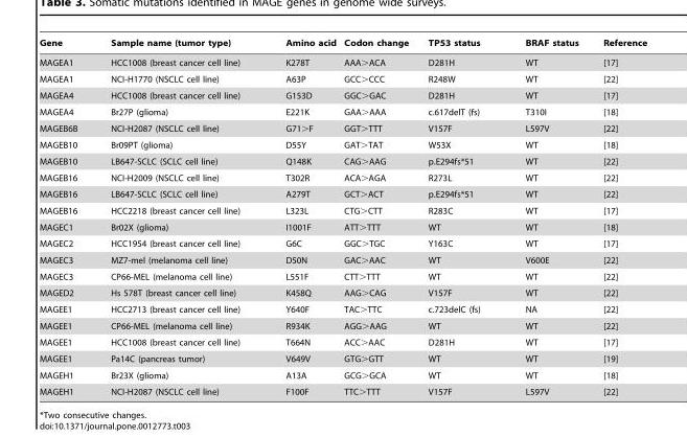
<table><thead><tr><td>Gene</td><td>Sample name (tumor type)</td><td>Amino acid</td><td>Codon change</td><td>TP53 status</td><td>BRAF status</td><td>Reference</td></tr></thead><tbody><tr><td>MAGEA1</td><td>HCC1008 (breast cancer cell line)</td><td>K278T</td><td>AAA&gt;ACA</td><td>D281H</td><td>WT</td><td>[17]</td></tr><tr><td>MAGEA1</td><td>NCI-H1770 (NSCLC cell line)</td><td>A63P</td><td>GCC&gt;CCC</td><td>R248W</td><td>WT</td><td>[22]</td></tr><tr><td>MAGEA4</td><td>HCC1008 (breast cancer cell line)</td><td>G153D</td><td>GGC&gt;GAC</td><td>D281H</td><td>WT</td><td>[17]</td></tr><tr><td>MAGEA4</td><td>Br27P (glioma)</td><td>E221K</td><td>GAA&gt;AAA</td><td>c.617delT (fs)</td><td>T310I</td><td>[18]</td></tr><tr><td>MAGEB6B</td><td>NCI-H2087 (NSCLC cell line)</td><td>G71&gt;F</td><td>GGT&gt;TTT</td><td>V157F</td><td>L597V</td><td>[22]</td></tr><tr><td>MAGEB10</td><td>Br09PT (glioma)</td><td>D55Y</td><td>GAT&gt;TAT</td><td>W53X</td><td>WT</td><td>[18]</td></tr><tr><td>MAGEB10</td><td>LB647-SCLC (SCLC cell line)</td><td>Q148K</td><td>CAG&gt;AAG</td><td>p.E294fs*51</td><td>WT</td><td>[22]</td></tr><tr><td>MAGEB16</td><td>NCI-H2009 (NSCLC cell line)</td><td>T302R</td><td>ACA&gt;AGA</td><td>R273L</td><td>WT</td><td>[22]</td></tr><tr><td>MAGEB16</td><td>LB647-SCLC (SCLC cell line)</td><td>A279T</td><td>GCT&gt;ACT</td><td>p.E294fs*51</td><td>WT</td><td>[22]</td></tr><tr><td>MAGEB16</td><td>HCC2218 (breast cancer cell line)</td><td>L323L</td><td>CTG&gt;CTT</td><td>R283C</td><td>WT</td><td>[17]</td></tr><tr><td>MAGEC1</td><td>Br02X (glioma)</td><td>I1001F</td><td>ATT&gt;TTT</td><td>WT</td><td>WT</td><td>[18]</td></tr><tr><td>MAGEC2</td><td>HCC1954 (breast cancer cell line)</td><td>G6C</td><td>GGC&gt;TGC</td><td>Y163C</td><td>WT</td><td>[17]</td></tr><tr><td>MAGEC3</td><td>MZ7-mel (melanoma cell line)</td><td>D50N</td><td>GAC&gt;AAC</td><td>WT</td><td>V600E</td><td>[22]</td></tr><tr><td>MAGEC3</td><td>CP66-MEL (melanoma cell line)</td><td>L551F</td><td>CTT&gt;TTT</td><td>WT</td><td>WT</td><td>[22]</td></tr><tr><td>MAGED2</td><td>Hs 578T (breast cancer cell line)</td><td>K458Q</td><td>AAG&gt;CAG</td><td>V157F</td><td>WT</td><td>[22]</td></tr><tr><td>MAGEE1</td><td>HCC2713 (breast cancer cell line)</td><td>Y640F</td><td>TAC&gt;TTC</td><td>c.723delC (fs)</td><td>NA</td><td>[22]</td></tr><tr><td>MAGEE1</td><td>CP66-MEL (melanoma cell line)</td><td>R934K</td><td>AGG&gt;AAG</td><td>WT</td><td>WT</td><td>[22]</td></tr><tr><td>MAGEE1</td><td>HCC1008 (breast cancer cell line)</td><td>T664N</td><td>ACC&gt;AAC</td><td>D281H</td><td>WT</td><td>[17]</td></tr><tr><td>MAGEE1</td><td>Pa14C (pancreas tumor)</td><td>V649V</td><td>GTG&gt;GTT</td><td>WT</td><td>WT</td><td>[19]</td></tr><tr><td>MAGEH1</td><td>Br23X (glioma)</td><td>A13A</td><td>GCG&gt;GCA</td><td>WT</td><td>WT</td><td>[18]</td></tr><tr><td>MAGEH1</td><td>NCI-H2087 (NSCLC cell line)</td><td>F100F</td><td>TTC&gt;TTT</td><td>V157F</td><td>L597V</td><td>[22]</td></tr></tbody></table>